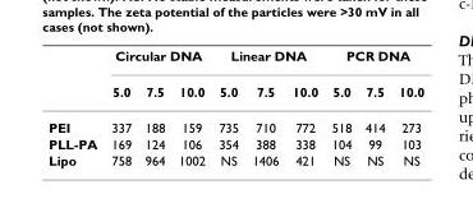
<table><thead><tr><td rowspan="2"></td><td colspan="3">Circular DNA</td><td colspan="3">Linear DNA</td><td colspan="3">PCR DNA</td></tr><tr><td>5.0</td><td>7.5</td><td>10.0</td><td>5.0</td><td>7.5</td><td>10.0</td><td>5.0</td><td>7.5</td><td>10.0</td></tr></thead><tbody><tr><td>PEI</td><td>337</td><td>188</td><td>159</td><td>735</td><td>710</td><td>772</td><td>518</td><td>414</td><td>273</td></tr><tr><td>PLL-PA</td><td>169</td><td>124</td><td>106</td><td>354</td><td>388</td><td>338</td><td>104</td><td>99</td><td>103</td></tr><tr><td>Lipo</td><td>758</td><td>964</td><td>1002</td><td>NS</td><td>1406</td><td>421</td><td>NS</td><td>NS</td><td>NS</td></tr></tbody></table>